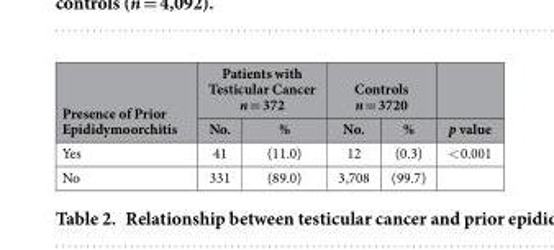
<table><thead><tr><td rowspan="2">Presence of Prior Epididymoorchitis</td><td colspan="2">Patients with Testicular Cancer n = 372</td><td colspan="2">Controls n = 3720</td><td rowspan="2">p value</td></tr><tr><td>No.</td><td>%</td><td>No.</td><td>%</td></tr></thead><tbody><tr><td>Yes</td><td>41</td><td>(11.0)</td><td>12</td><td>(0.3)</td><td>&lt; 0.001</td></tr><tr><td>No</td><td>331</td><td>(89.0)</td><td>3,708</td><td>(99.7)</td><td></td></tr></tbody></table>